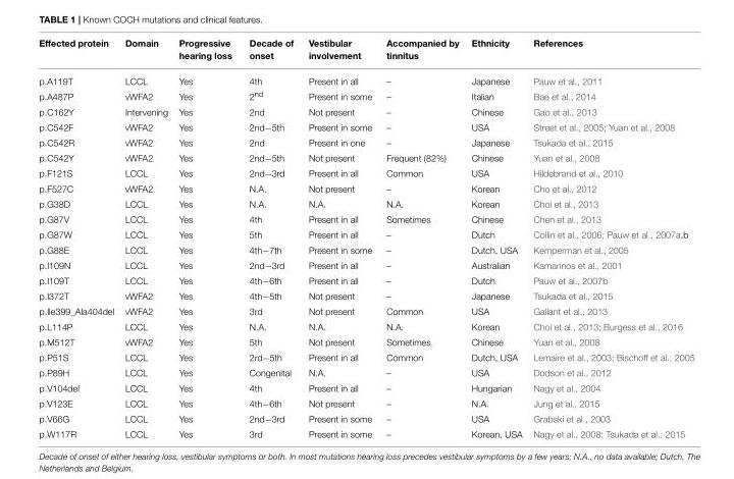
<table><thead><tr><td>Effected protein</td><td>Domain</td><td>Progressive hearing loss</td><td>Decade of onset</td><td>Vestibular involvement</td><td>Accompanied by tinnitus</td><td>Ethnicity</td><td>References</td></tr></thead><tbody><tr><td>p.A119T</td><td>LCCL</td><td>Yes</td><td>4th</td><td>Present in all</td><td>–</td><td>Japanese</td><td>Pauw et al., 2011</td></tr><tr><td>p.A487P</td><td>vWFA2</td><td>Yes</td><td>2<sup>nd</sup></td><td>Present in some</td><td>–</td><td>Italian</td><td>Bae et al., 2014</td></tr><tr><td>p.C162Y</td><td>Intervening</td><td>Yes</td><td>2nd</td><td>Not present</td><td>–</td><td>Chinese</td><td>Gao et al., 2013</td></tr><tr><td>p.C542F</td><td>vWFA2</td><td>Yes</td><td>2nd−5th</td><td>Present in some</td><td>–</td><td>USA</td><td>Street et al., 2005; Yuan et al., 2008</td></tr><tr><td>p.C542R</td><td>vWFA2</td><td>Yes</td><td>2nd</td><td>Present in one</td><td>–</td><td>Japanese</td><td>Tsukada et al., 2015</td></tr><tr><td>p.C542Y</td><td>vWFA2</td><td>Yes</td><td>2nd−5th</td><td>Not present</td><td>Frequent (82%)</td><td>Chinese</td><td>Yuan et al., 2008</td></tr><tr><td>p.F121S</td><td>LCCL</td><td>Yes</td><td>2nd−3rd</td><td>Present in all</td><td>Common</td><td>USA</td><td>Hildebrand et al., 2010</td></tr><tr><td>p.F527C</td><td>vWFA2</td><td>Yes</td><td>N.A.</td><td>Not present</td><td>–</td><td>Korean</td><td>Cho et al., 2012</td></tr><tr><td>p.G38D</td><td>LCCL</td><td>Yes</td><td>N.A.</td><td>N.A.</td><td>N.A.</td><td>Korean</td><td>Choi et al., 2013</td></tr><tr><td>p.G87V</td><td>LCCL</td><td>Yes</td><td>4th</td><td>Present in all</td><td>Sometimes</td><td>Chinese</td><td>Chen et al., 2013</td></tr><tr><td>p.G87W</td><td>LCCL</td><td>Yes</td><td>5th</td><td>Present in all</td><td>–</td><td>Dutch</td><td>Collin et al., 2006; Pauw et al., 2007a,b</td></tr><tr><td>p.G88E</td><td>LCCL</td><td>Yes</td><td>4th−7th</td><td>Present in some</td><td>–</td><td>Dutch, USA</td><td>Kemperman et al., 2005</td></tr><tr><td>p.I109N</td><td>LCCL</td><td>Yes</td><td>2nd−3rd</td><td>Present in all</td><td>–</td><td>Australian</td><td>Kamarinos et al., 2001</td></tr><tr><td>p.I109T</td><td>LCCL</td><td>Yes</td><td>4th−6th</td><td>Present in all</td><td>–</td><td>Dutch</td><td>Pauw et al., 2007b</td></tr><tr><td>p.I372T</td><td>vWFA2</td><td>Yes</td><td>4th−5th</td><td>Not present</td><td>–</td><td>Japanese</td><td>Tsukada et al., 2015</td></tr><tr><td>p.Ile399_Ala404del</td><td>vWFA2</td><td>Yes</td><td>3rd</td><td>Not present</td><td>Common</td><td>USA</td><td>Gallant et al., 2013</td></tr><tr><td>p.L114P</td><td>LCCL</td><td>Yes</td><td>N.A.</td><td>N.A.</td><td>N.A.</td><td>Korean</td><td>Choi et al., 2013; Burgess et al., 2016</td></tr><tr><td>p.M512T</td><td>vWFA2</td><td>Yes</td><td>5th</td><td>Not present</td><td>Sometimes</td><td>Chinese</td><td>Yuan et al., 2008</td></tr><tr><td>p.P51S</td><td>LCCL</td><td>Yes</td><td>2rd−5th</td><td>Present in all</td><td>Common</td><td>Dutch, USA</td><td>Lemaire et al., 2003; Bischoff et al., 2005</td></tr><tr><td>p.P89H</td><td>LCCL</td><td>Yes</td><td>Congenital</td><td>N.A.</td><td>–</td><td>USA</td><td>Dodson et al., 2012</td></tr><tr><td>p.V104del</td><td>LCCL</td><td>Yes</td><td>4th</td><td>Present in all</td><td>–</td><td>Hungarian</td><td>Nagy et al., 2004</td></tr><tr><td>p.V123E</td><td>LCCL</td><td>Yes</td><td>4th−6th</td><td>Not present</td><td>–</td><td>N.A.</td><td>Jung et al., 2015</td></tr><tr><td>p.V66G</td><td>LCCL</td><td>Yes</td><td>2nd−3rd</td><td>Present in some</td><td>–</td><td>USA</td><td>Grabski et al., 2003</td></tr><tr><td>p.W117R</td><td>LCCL</td><td>Yes</td><td>3rd</td><td>Present in some</td><td>–</td><td>Korean, USA</td><td>Nagy et al., 2008; Tsukada et al., 2015</td></tr></tbody></table>